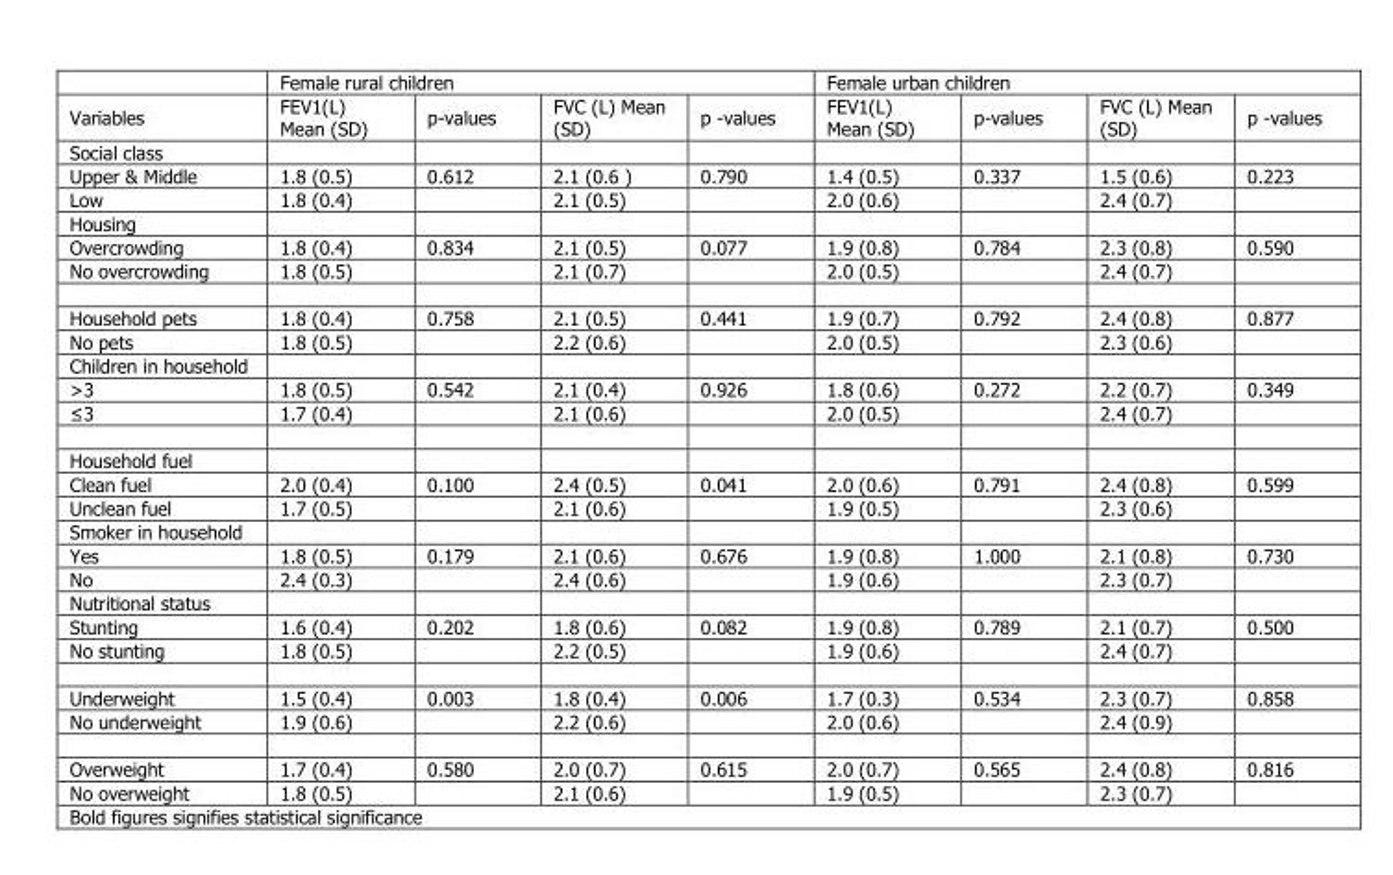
<table><thead><tr><td rowspan="2">Variables</td><td colspan="4">Female rural children</td><td colspan="4">Female urban children</td></tr><tr><td>FEV1(L) Mean (SD)</td><td>p-values</td><td>FVC (L) Mean (SD)</td><td>p -values</td><td>FEV1(L) Mean (SD)</td><td>p-values</td><td>FVC (L) Mean (SD)</td><td>p -values</td></tr></thead><tbody><tr><td colspan="9">Social class</td></tr><tr><td>Upper &amp; Middle</td><td>1.8 (0.5)</td><td>0.612</td><td>2.1 (0.6 )</td><td>0.790</td><td>1.4 (0.5)</td><td>0.337</td><td>1.5 (0.6)</td><td>0.223</td></tr><tr><td>Low</td><td>1.8 (0.4)</td><td></td><td>2.1 (0.5)</td><td></td><td>2.0 (0.6)</td><td></td><td>2.4 (0.7)</td><td></td></tr><tr><td colspan="9">Housing</td></tr><tr><td>Overcrowding</td><td>1.8 (0.4)</td><td>0.834</td><td>2.1 (0.5)</td><td>0.077</td><td>1.9 (0.8)</td><td>0.784</td><td>2.3 (0.8)</td><td>0.590</td></tr><tr><td>No overcrowding</td><td>1.8 (0.5)</td><td></td><td>2.1 (0.7)</td><td></td><td>2.0 (0.5)</td><td></td><td>2.4 (0.7)</td><td></td></tr><tr><td>Household pets</td><td>1.8 (0.4)</td><td>0.758</td><td>2.1 (0.5)</td><td>0.441</td><td>1.9 (0.7)</td><td>0.792</td><td>2.4 (0.8)</td><td>0.877</td></tr><tr><td>No pets</td><td>1.8 (0.5)</td><td></td><td>2.2 (0.6)</td><td></td><td>2.0 (0.5)</td><td></td><td>2.3 (0.6)</td><td></td></tr><tr><td colspan="9">Children in household</td></tr><tr><td>&gt;3</td><td>1.8 (0.5)</td><td>0.542</td><td>2.1 (0.4)</td><td>0.926</td><td>1.8 (0.6)</td><td>0.272</td><td>2.2 (0.7)</td><td>0.349</td></tr><tr><td>≤3</td><td>1.7 (0.4)</td><td></td><td>2.1 (0.6)</td><td></td><td>2.0 (0.5)</td><td></td><td>2.4 (0.7)</td><td></td></tr><tr><td colspan="9">Household fuel</td></tr><tr><td>Clean fuel</td><td>2.0 (0.4)</td><td>0.100</td><td>2.4 (0.5)</td><td>0.041</td><td>2.0 (0.6)</td><td>0.791</td><td>2.4 (0.8)</td><td>0.599</td></tr><tr><td>Unclean fuel</td><td>1.7 (0.5)</td><td></td><td>2.1 (0.6)</td><td></td><td>1.9 (0.5)</td><td></td><td>2.3 (0.6)</td><td></td></tr><tr><td colspan="9">Smoker in household</td></tr><tr><td>Yes</td><td>1.8 (0.5)</td><td>0.179</td><td>2.1 (0.6)</td><td>0.676</td><td>1.9 (0.8)</td><td>1.000</td><td>2.1 (0.8)</td><td>0.730</td></tr><tr><td>No</td><td>2.4 (0.3)</td><td></td><td>2.4 (0.6)</td><td></td><td>1.9 (0.6)</td><td></td><td>2.3 (0.7)</td><td></td></tr><tr><td colspan="9">Nutritional status</td></tr><tr><td>Stunting</td><td>1.6 (0.4)</td><td>0.202</td><td>1.8 (0.6)</td><td>0.082</td><td>1.9 (0.8)</td><td>0.789</td><td>2.1 (0.7)</td><td>0.500</td></tr><tr><td>No stunting</td><td>1.8 (0.5)</td><td></td><td>2.2 (0.5)</td><td></td><td>1.9 (0.6)</td><td></td><td>2.4 (0.7)</td><td></td></tr><tr><td>Underweight</td><td>1.5 (0.4)</td><td>0.003</td><td>1.8 (0.4)</td><td>0.006</td><td>1.7 (0.3)</td><td>0.534</td><td>2.3 (0.7)</td><td>0.858</td></tr><tr><td>No underweight</td><td>1.9 (0.6)</td><td></td><td>2.2 (0.6)</td><td></td><td>2.0 (0.6)</td><td></td><td>2.4 (0.9)</td><td></td></tr><tr><td>Overweight</td><td>1.7 (0.4)</td><td>0.580</td><td>2.0 (0.7)</td><td>0.615</td><td>2.0 (0.7)</td><td>0.565</td><td>2.4 (0.8)</td><td>0.816</td></tr><tr><td>No overweight</td><td>1.8 (0.5)</td><td></td><td>2.1 (0.6)</td><td></td><td>1.9 (0.5)</td><td></td><td>2.3 (0.7)</td><td></td></tr></tbody></table>